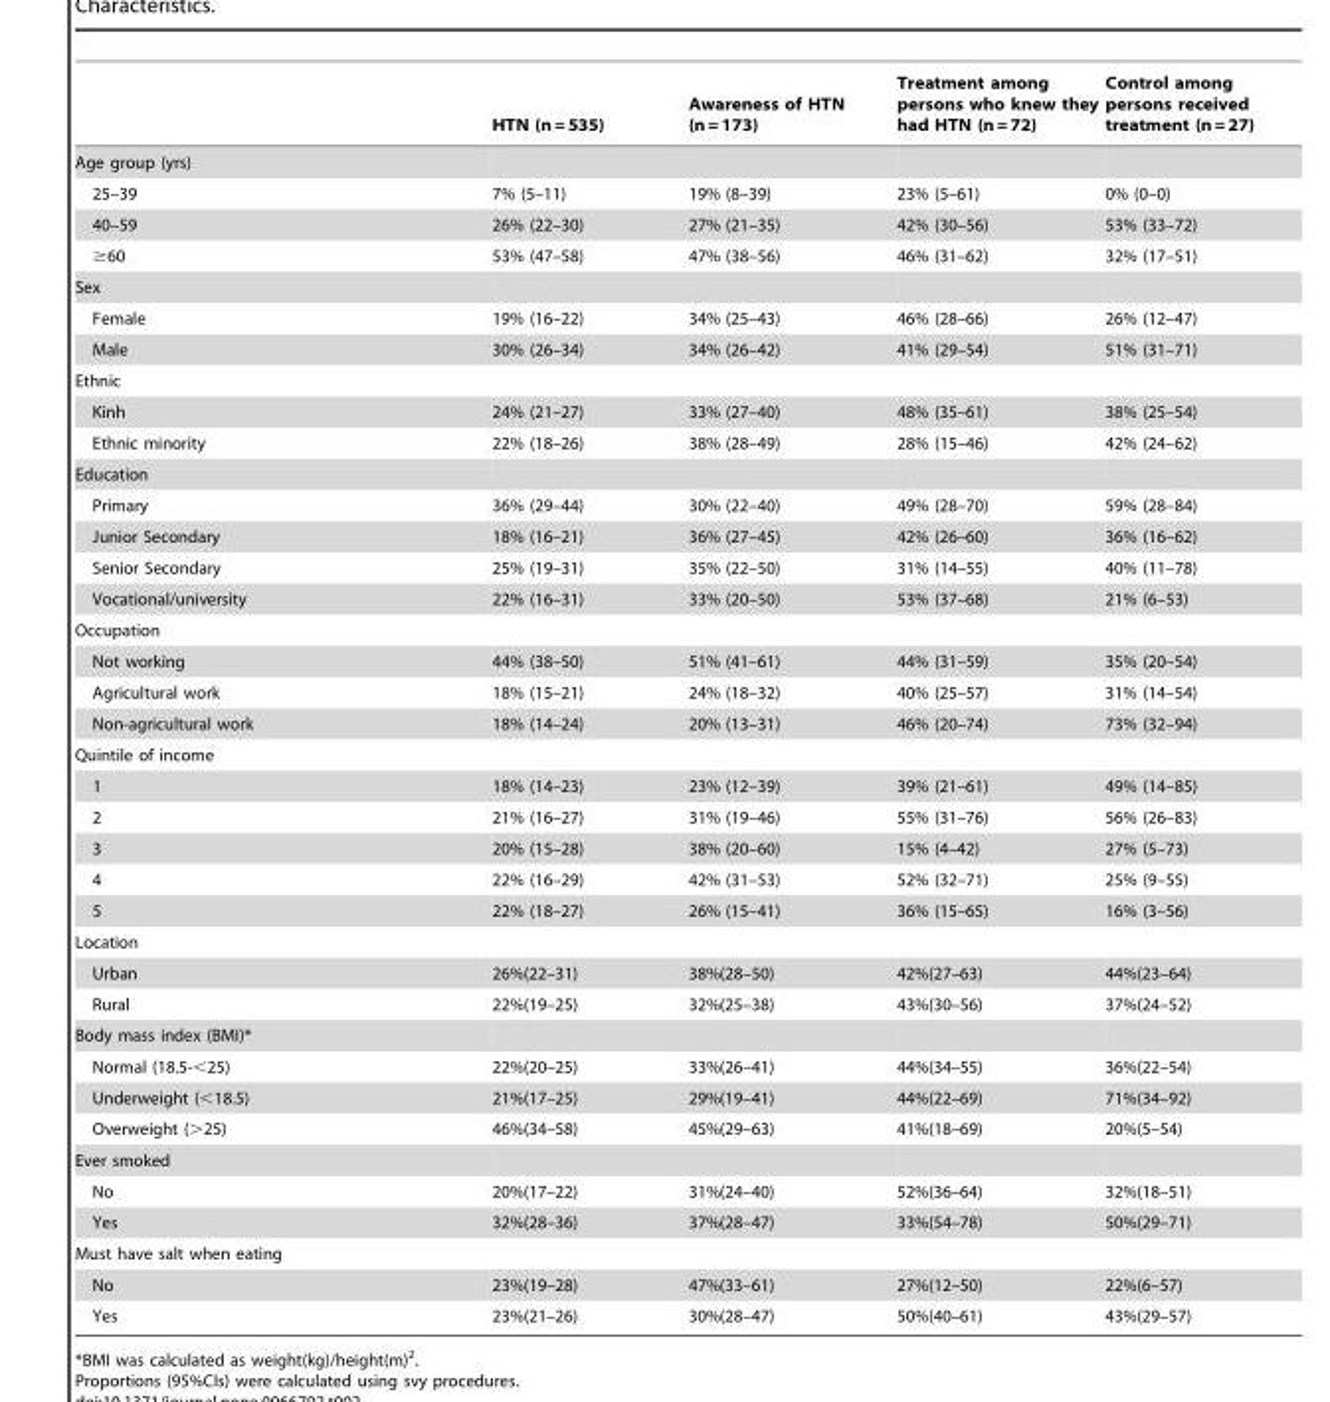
<table><thead><tr><td></td><td>HTN (n = 535)</td><td>Awareness of HTN (n = 173)</td><td>Treatment among persons who knew they had HTN (n = 72)</td><td>Control among persons received treatment (n = 27)</td></tr></thead><tbody><tr><td colspan="5">Age group (yrs)</td></tr><tr><td>25–39</td><td>7% (5–11)</td><td>19% (8–39)</td><td>23% (5–61)</td><td>0% (0–0)</td></tr><tr><td>40–59</td><td>26% (22–30)</td><td>27% (21–35)</td><td>42% (30–56)</td><td>53% (33–72)</td></tr><tr><td>≥60</td><td>53% (47–58)</td><td>47% (38–56)</td><td>46% (31–62)</td><td>32% (17–51)</td></tr><tr><td colspan="5">Sex</td></tr><tr><td>Female</td><td>19% (16–22)</td><td>34% (25–43)</td><td>46% (28–66)</td><td>26% (12–47)</td></tr><tr><td>Male</td><td>30% (26–34)</td><td>34% (26–42)</td><td>41% (29–54)</td><td>51% (31–71)</td></tr><tr><td colspan="5">Ethnic</td></tr><tr><td>Kinh</td><td>24% (21–27)</td><td>33% (27–40)</td><td>48% (35–61)</td><td>38% (25–54)</td></tr><tr><td>Ethnic minority</td><td>22% (18–26)</td><td>38% (28–49)</td><td>28% (15–46)</td><td>42% (24–62)</td></tr><tr><td colspan="5">Education</td></tr><tr><td>Primary</td><td>36% (29–44)</td><td>30% (22–40)</td><td>49% (28–70)</td><td>59% (28–84)</td></tr><tr><td>Junior Secondary</td><td>18% (16–21)</td><td>36% (27–45)</td><td>42% (26–60)</td><td>36% (16–62)</td></tr><tr><td>Senior Secondary</td><td>25% (19–31)</td><td>35% (22–50)</td><td>31% (14–55)</td><td>40% (11–78)</td></tr><tr><td>Vocational/university</td><td>22% (16–31)</td><td>33% (20–50)</td><td>53% (37–68)</td><td>21% (6–53)</td></tr><tr><td colspan="5">Occupation</td></tr><tr><td>Not working</td><td>44% (38–50)</td><td>51% (41–61)</td><td>44% (31–59)</td><td>35% (20–54)</td></tr><tr><td>Agricultural work</td><td>18% (15–21)</td><td>24% (18–32)</td><td>40% (25–57)</td><td>31% (14–54)</td></tr><tr><td>Non-agricultural work</td><td>18% (14–24)</td><td>20% (13–31)</td><td>46% (20–74)</td><td>73% (32–94)</td></tr><tr><td colspan="5">Quintile of income</td></tr><tr><td>1</td><td>18% (14–23)</td><td>23% (12–39)</td><td>39% (21–61)</td><td>49% (14–85)</td></tr><tr><td>2</td><td>21% (16–27)</td><td>31% (19–46)</td><td>55% (31–76)</td><td>56% (26–83)</td></tr><tr><td>3</td><td>20% (15–28)</td><td>38% (20–60)</td><td>15% (4–42)</td><td>27% (5–73)</td></tr><tr><td>4</td><td>22% (16–29)</td><td>42% (31–53)</td><td>52% (32–71)</td><td>25% (9–55)</td></tr><tr><td>5</td><td>22% (18–27)</td><td>26% (15–41)</td><td>36% (15–65)</td><td>16% (3–56)</td></tr><tr><td colspan="5">Location</td></tr><tr><td>Urban</td><td>26%(22–31)</td><td>38%(28–50)</td><td>42%(27–63)</td><td>44%(23–64)</td></tr><tr><td>Rural</td><td>22%(19–25)</td><td>32%(25–38)</td><td>43%(30–56)</td><td>37%(24–52)</td></tr><tr><td colspan="5">Body mass index (BMI)*</td></tr><tr><td>Normal (18.5-&lt;25)</td><td>22%(20–25)</td><td>33%(26–41)</td><td>44%(34–55)</td><td>36%(22–54)</td></tr><tr><td>Underweight (&lt;18.5)</td><td>21%(17–25)</td><td>29%(19–41)</td><td>44%(22–69)</td><td>71%(34–92)</td></tr><tr><td>Overweight (&gt;25)</td><td>46%(34–58)</td><td>45%(29–63)</td><td>41%(18–69)</td><td>20%(5–54)</td></tr><tr><td colspan="5">Ever smoked</td></tr><tr><td>No</td><td>20%(17–22)</td><td>31%(24–40)</td><td>52%(36–64)</td><td>32%(18–51)</td></tr><tr><td>Yes</td><td>32%(28–36)</td><td>37%(28–47)</td><td>33%(54–78)</td><td>50%(29–71)</td></tr><tr><td colspan="5">Must have salt when eating</td></tr><tr><td>No</td><td>23%(19–28)</td><td>47%(33–61)</td><td>27%(12–50)</td><td>22%(6–57)</td></tr><tr><td>Yes</td><td>23%(21–26)</td><td>30%(28–47)</td><td>50%(40–61)</td><td>43%(29–57)</td></tr></tbody></table>